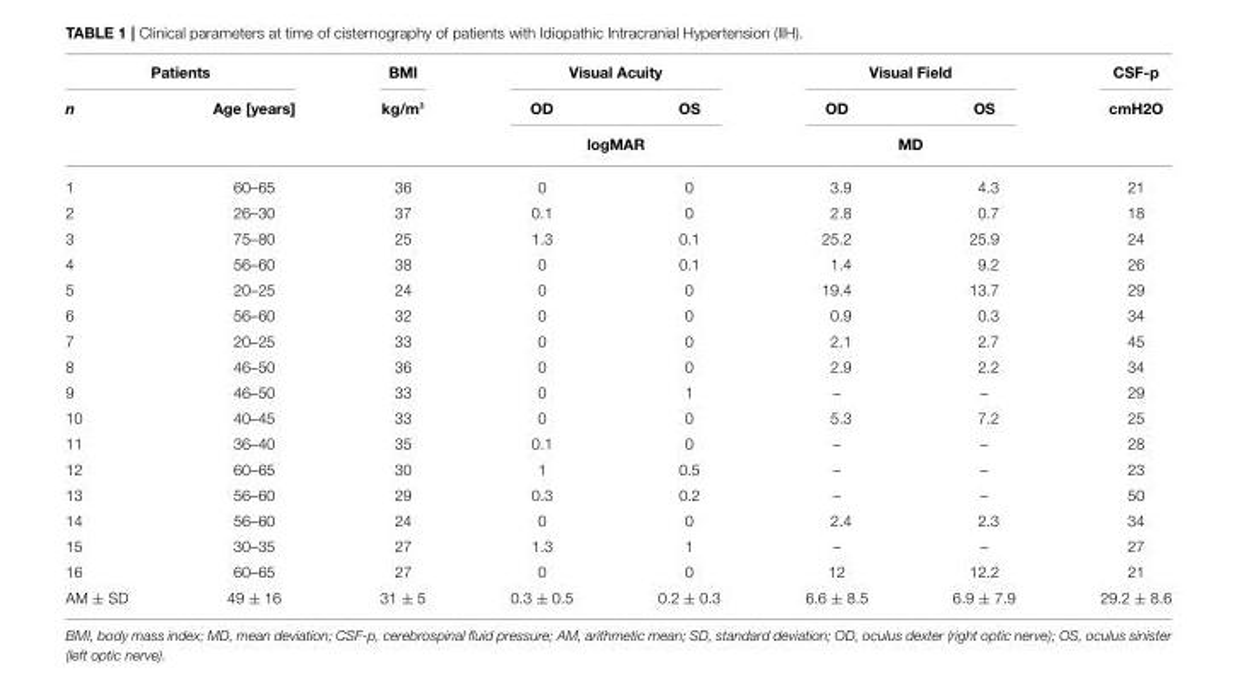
<table><thead><tr><td colspan="2">Patients</td><td rowspan="3">BMI kg/m²</td><td colspan="2">Visual Acuity</td><td colspan="2">Visual Field</td><td rowspan="3">CSF-p cmH2O</td></tr><tr><td rowspan="2">n</td><td rowspan="2">Age [years]</td><td>OD</td><td>OS</td><td>OD</td><td>OS</td></tr><tr><td colspan="2">logMAR</td><td colspan="2">MD</td></tr></thead><tbody><tr><td>1</td><td>60–65</td><td>36</td><td>0</td><td>0</td><td>3.9</td><td>4.3</td><td>21</td></tr><tr><td>2</td><td>26–30</td><td>37</td><td>0.1</td><td>0</td><td>2.8</td><td>0.7</td><td>18</td></tr><tr><td>3</td><td>75–80</td><td>25</td><td>1.3</td><td>0.1</td><td>25.2</td><td>25.9</td><td>24</td></tr><tr><td>4</td><td>56–60</td><td>38</td><td>0</td><td>0.1</td><td>1.4</td><td>9.2</td><td>26</td></tr><tr><td>5</td><td>20–25</td><td>24</td><td>0</td><td>0</td><td>19.4</td><td>13.7</td><td>29</td></tr><tr><td>6</td><td>56–60</td><td>32</td><td>0</td><td>0</td><td>0.9</td><td>0.3</td><td>34</td></tr><tr><td>7</td><td>20–25</td><td>33</td><td>0</td><td>0</td><td>2.1</td><td>2.7</td><td>45</td></tr><tr><td>8</td><td>46–50</td><td>36</td><td>0</td><td>0</td><td>2.9</td><td>2.2</td><td>34</td></tr><tr><td>9</td><td>46–50</td><td>33</td><td>0</td><td>1</td><td>–</td><td>–</td><td>29</td></tr><tr><td>10</td><td>40–45</td><td>33</td><td>0</td><td>0</td><td>5.3</td><td>7.2</td><td>25</td></tr><tr><td>11</td><td>36–40</td><td>35</td><td>0.1</td><td>0</td><td>–</td><td>–</td><td>28</td></tr><tr><td>12</td><td>60–65</td><td>30</td><td>1</td><td>0.5</td><td>–</td><td>–</td><td>23</td></tr><tr><td>13</td><td>56–60</td><td>29</td><td>0.3</td><td>0.2</td><td>–</td><td>–</td><td>50</td></tr><tr><td>14</td><td>56–60</td><td>24</td><td>0</td><td>0</td><td>2.4</td><td>2.3</td><td>34</td></tr><tr><td>15</td><td>30–35</td><td>27</td><td>1.3</td><td>1</td><td>–</td><td>–</td><td>27</td></tr><tr><td>16</td><td>60–65</td><td>27</td><td>0</td><td>0</td><td>12</td><td>12.2</td><td>21</td></tr><tr><td>AM ± SD</td><td>49 ± 16</td><td>31 ± 5</td><td>0.3 ± 0.5</td><td>0.2 ± 0.3</td><td>6.6 ± 8.5</td><td>6.9 ± 7.9</td><td>29.2 ± 8.6</td></tr></tbody></table>